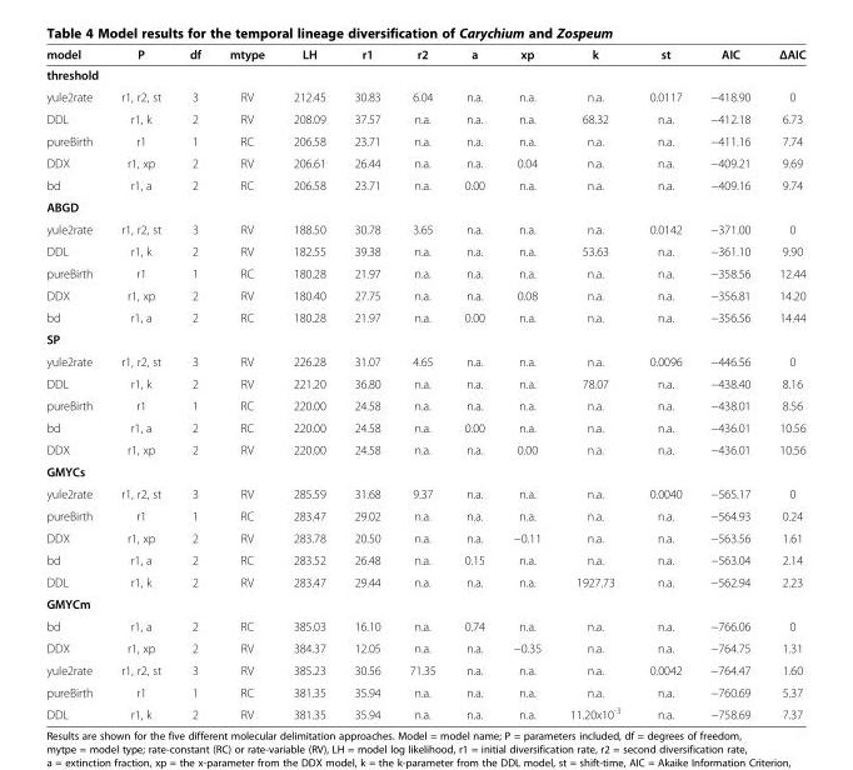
<table><thead><tr><td>model</td><td>P</td><td>df</td><td>mtype</td><td>LH</td><td>r1</td><td>r2</td><td>a</td><td>xp</td><td>k</td><td>st</td><td>AIC</td><td>ΔAIC</td></tr></thead><tbody><tr><td colspan="13">threshold</td></tr><tr><td>yule2rate</td><td>r1, r2, st</td><td>3</td><td>RV</td><td>212.45</td><td>30.83</td><td>6.04</td><td>n.a.</td><td>n.a.</td><td>n.a.</td><td>0.0117</td><td>−418.90</td><td>0</td></tr><tr><td>DDL</td><td>r1, k</td><td>2</td><td>RV</td><td>208.09</td><td>37.57</td><td>n.a.</td><td>n.a.</td><td>n.a.</td><td>68.32</td><td>n.a.</td><td>−412.18</td><td>6.73</td></tr><tr><td>pureBirth</td><td>r1</td><td>1</td><td>RC</td><td>206.58</td><td>23.71</td><td>n.a.</td><td>n.a.</td><td>n.a.</td><td>n.a.</td><td>n.a.</td><td>−411.16</td><td>7.74</td></tr><tr><td>DDX</td><td>r1, xp</td><td>2</td><td>RV</td><td>206.61</td><td>26.44</td><td>n.a.</td><td>n.a.</td><td>0.04</td><td>n.a.</td><td>n.a.</td><td>−409.21</td><td>9.69</td></tr><tr><td>bd</td><td>r1, a</td><td>2</td><td>RC</td><td>206.58</td><td>23.71</td><td>n.a.</td><td>0.00</td><td>n.a.</td><td>n.a.</td><td>n.a.</td><td>−409.16</td><td>9.74</td></tr><tr><td colspan="13">ABGD</td></tr><tr><td>yule2rate</td><td>r1, r2, st</td><td>3</td><td>RV</td><td>188.50</td><td>30.78</td><td>3.65</td><td>n.a.</td><td>n.a.</td><td>n.a.</td><td>0.0142</td><td>−371.00</td><td>0</td></tr><tr><td>DDL</td><td>r1, k</td><td>2</td><td>RV</td><td>182.55</td><td>39.38</td><td>n.a.</td><td>n.a.</td><td>n.a.</td><td>53.63</td><td>n.a.</td><td>−361.10</td><td>9.90</td></tr><tr><td>pureBirth</td><td>r1</td><td>1</td><td>RC</td><td>180.28</td><td>21.97</td><td>n.a.</td><td>n.a.</td><td>n.a.</td><td>n.a.</td><td>n.a.</td><td>−358.56</td><td>12.44</td></tr><tr><td>DDX</td><td>r1, xp</td><td>2</td><td>RV</td><td>180.40</td><td>27.75</td><td>n.a.</td><td>n.a.</td><td>0.08</td><td>n.a.</td><td>n.a.</td><td>−356.81</td><td>14.20</td></tr><tr><td>bd</td><td>r1, a</td><td>2</td><td>RC</td><td>180.28</td><td>21.97</td><td>n.a.</td><td>0.00</td><td>n.a.</td><td>n.a.</td><td>n.a.</td><td>−356.56</td><td>14.44</td></tr><tr><td colspan="13">SP</td></tr><tr><td>yule2rate</td><td>r1, r2, st</td><td>3</td><td>RV</td><td>226.28</td><td>31.07</td><td>4.65</td><td>n.a.</td><td>n.a.</td><td>n.a.</td><td>0.0096</td><td>−446.56</td><td>0</td></tr><tr><td>DDL</td><td>r1, k</td><td>2</td><td>RV</td><td>221.20</td><td>36.80</td><td>n.a.</td><td>n.a.</td><td>n.a.</td><td>78.07</td><td>n.a.</td><td>−438.40</td><td>8.16</td></tr><tr><td>pureBirth</td><td>r1</td><td>1</td><td>RC</td><td>220.00</td><td>24.58</td><td>n.a.</td><td>n.a.</td><td>n.a.</td><td>n.a.</td><td>n.a.</td><td>−438.01</td><td>8.56</td></tr><tr><td>bd</td><td>r1, a</td><td>2</td><td>RC</td><td>220.00</td><td>24.58</td><td>n.a.</td><td>0.00</td><td>n.a.</td><td>n.a.</td><td>n.a.</td><td>−436.01</td><td>10.56</td></tr><tr><td>DDX</td><td>r1, xp</td><td>2</td><td>RV</td><td>220.00</td><td>24.58</td><td>n.a.</td><td>n.a.</td><td>0.00</td><td>n.a.</td><td>n.a.</td><td>−436.01</td><td>10.56</td></tr><tr><td colspan="13">GMYCs</td></tr><tr><td>yule2rate</td><td>r1, r2, st</td><td>3</td><td>RV</td><td>285.59</td><td>31.68</td><td>9.37</td><td>n.a.</td><td>n.a.</td><td>n.a.</td><td>0.0040</td><td>−565.17</td><td>0</td></tr><tr><td>pureBirth</td><td>r1</td><td>1</td><td>RC</td><td>283.47</td><td>29.02</td><td>n.a.</td><td>n.a.</td><td>n.a.</td><td>n.a.</td><td>n.a.</td><td>−564.93</td><td>0.24</td></tr><tr><td>DDX</td><td>r1, xp</td><td>2</td><td>RV</td><td>283.78</td><td>20.50</td><td>n.a.</td><td>n.a.</td><td>−0.11</td><td>n.a.</td><td>n.a.</td><td>−563.56</td><td>1.61</td></tr><tr><td>bd</td><td>r1, a</td><td>2</td><td>RC</td><td>283.52</td><td>26.48</td><td>n.a.</td><td>0.15</td><td>n.a.</td><td>n.a.</td><td>n.a.</td><td>−563.04</td><td>2.14</td></tr><tr><td>DDL</td><td>r1, k</td><td>2</td><td>RV</td><td>283.47</td><td>29.44</td><td>n.a.</td><td>n.a.</td><td>n.a.</td><td>1927.73</td><td>n.a.</td><td>−562.94</td><td>2.23</td></tr><tr><td colspan="13">GMYCm</td></tr><tr><td>bd</td><td>r1, a</td><td>2</td><td>RC</td><td>385.03</td><td>16.10</td><td>n.a.</td><td>0.74</td><td>n.a.</td><td>n.a.</td><td>n.a.</td><td>−766.06</td><td>0</td></tr><tr><td>DDX</td><td>r1, xp</td><td>2</td><td>RV</td><td>384.37</td><td>12.05</td><td>n.a.</td><td>n.a.</td><td>−0.35</td><td>n.a.</td><td>n.a.</td><td>−764.75</td><td>1.31</td></tr><tr><td>yule2rate</td><td>r1, r2, st</td><td>3</td><td>RV</td><td>385.23</td><td>30.56</td><td>71.35</td><td>n.a.</td><td>n.a.</td><td>n.a.</td><td>0.0042</td><td>−764.47</td><td>1.60</td></tr><tr><td>pureBirth</td><td>r1</td><td>1</td><td>RC</td><td>381.35</td><td>35.94</td><td>n.a.</td><td>n.a.</td><td>n.a.</td><td>n.a.</td><td>n.a.</td><td>−760.69</td><td>5.37</td></tr><tr><td>DDL</td><td>r1, k</td><td>2</td><td>RV</td><td>381.35</td><td>35.94</td><td>n.a.</td><td>n.a.</td><td>n.a.</td><td>11.20x10<sup>-3</sup></td><td>n.a.</td><td>−758.69</td><td>7.37</td></tr></tbody></table>